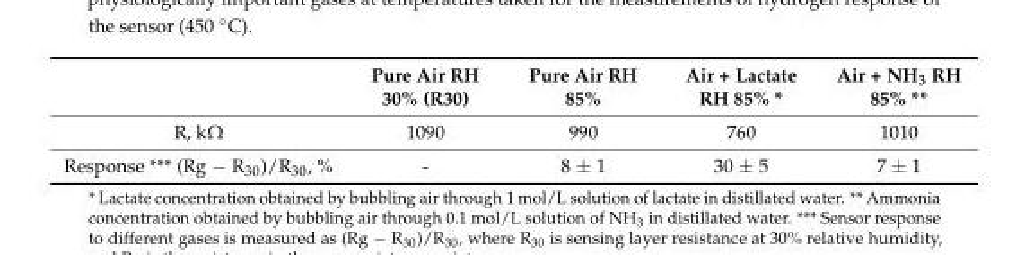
<table><thead><tr><td></td><td>Pure Air RH 30% (R30)</td><td>Pure Air RH 85%</td><td>Air + Lactate RH 85% *</td><td>Air + NH<sub>3</sub> RH 85% **</td></tr></thead><tbody><tr><td>R, kΩ</td><td>1090</td><td>990</td><td>760</td><td>1010</td></tr><tr><td>Response *** (Rg − R<sub>30</sub>)/R<sub>30</sub>, %</td><td>-</td><td>8 ± 1</td><td>30 ± 5</td><td>7 ± 1</td></tr></tbody></table>